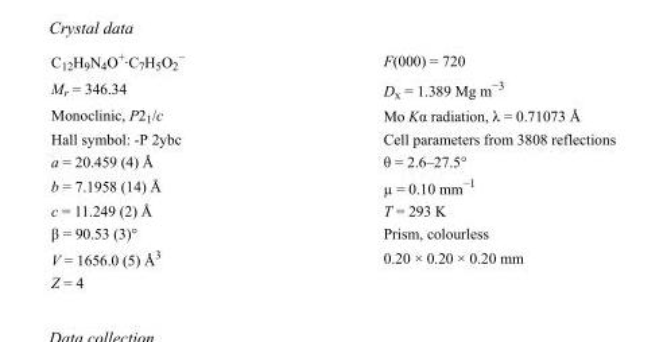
<table><tbody><tr><td>C<sub>12</sub>H<sub>9</sub>N<sub>4</sub>O<sup>+</sup>·C<sub>7</sub>H<sub>5</sub>O<sub>2</sub> <sup>−</sup></td><td>F(000) = 720</td></tr><tr><td>M<sub>r</sub> = 346.34</td><td>D<sub>x</sub> = 1.389 Mg m<sup>−3</sup></td></tr><tr><td>Monoclinic, P2<sub>1</sub>/c</td><td>Mo Kα radiation, λ = 0.71073 Å</td></tr><tr><td>Hall symbol: -P 2ybc</td><td>Cell parameters from 3808 reflections</td></tr><tr><td>a = 20.459 (4) Å</td><td>θ = 2.6–27.5°</td></tr><tr><td>b = 7.1958 (14) Å</td><td>µ = 0.10 mm<sup>−1</sup></td></tr><tr><td>c = 11.249 (2) Å</td><td>T = 293 K</td></tr><tr><td>β = 90.53 (3)°</td><td>Prism, colourless</td></tr><tr><td>V = 1656.0 (5) Å<sup>3</sup></td><td>0.20 × 0.20 × 0.20 mm</td></tr><tr><td>Z = 4</td><td></td></tr></tbody></table>